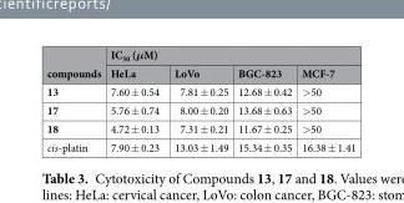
<table><thead><tr><td rowspan="2">compounds</td><td colspan="4">IC<sub>50</sub> (μM)</td></tr><tr><td>HeLa</td><td>LoVo</td><td>BGC-823</td><td>MCF-7</td></tr></thead><tbody><tr><td>13</td><td>7.60 ± 0.54</td><td>7.81 ± 0.25</td><td>12.68 ± 0.42</td><td>&gt;50</td></tr><tr><td>17</td><td>5.76 ± 0.74</td><td>8.00 ± 0.20</td><td>13.68 ± 0.63</td><td>&gt;50</td></tr><tr><td>18</td><td>4.72 ± 0.13</td><td>7.31 ± 0.21</td><td>11.67 ± 0.25</td><td>&gt;50</td></tr><tr><td>cis-platin</td><td>7.90 ± 0.23</td><td>13.03 ± 1.49</td><td>15.34 ± 0.35</td><td>16.38 ± 1.41</td></tr></tbody></table>